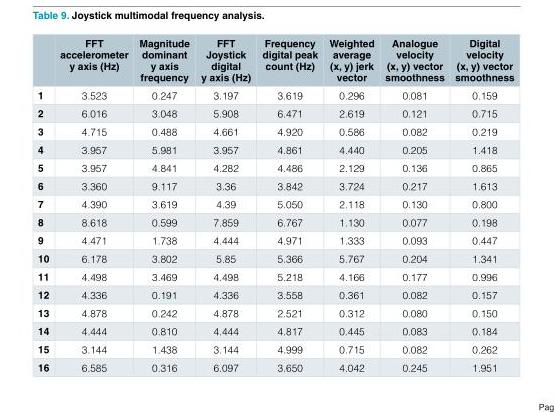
<table><thead><tr><td></td><td>FFT accelerometer y axis (Hz)</td><td>Magnitude dominant y axis frequency</td><td>FFT Joystick digital y axis (Hz)</td><td>Frequency digital peak count (Hz)</td><td>Weighted average (x, y) jerk vector</td><td>Analogue velocity (x, y) vector smoothness</td><td>Digital velocity (x, y) vector smoothness</td></tr></thead><tbody><tr><td>1</td><td>3.523</td><td>0.247</td><td>3.197</td><td>3.619</td><td>0.296</td><td>0.081</td><td>0.159</td></tr><tr><td>2</td><td>6.016</td><td>3.048</td><td>5.908</td><td>6.471</td><td>2.619</td><td>0.121</td><td>0.715</td></tr><tr><td>3</td><td>4.715</td><td>0.488</td><td>4.661</td><td>4.920</td><td>0.586</td><td>0.082</td><td>0.219</td></tr><tr><td>4</td><td>3.957</td><td>5.981</td><td>3.957</td><td>4.861</td><td>4.440</td><td>0.205</td><td>1.418</td></tr><tr><td>5</td><td>3.957</td><td>4.841</td><td>4.282</td><td>4.486</td><td>2.129</td><td>0.136</td><td>0.865</td></tr><tr><td>6</td><td>3.360</td><td>9.117</td><td>3.36</td><td>3.842</td><td>3.724</td><td>0.217</td><td>1.613</td></tr><tr><td>7</td><td>4.390</td><td>3.619</td><td>4.39</td><td>5.050</td><td>2.118</td><td>0.130</td><td>0.800</td></tr><tr><td>8</td><td>8.618</td><td>0.599</td><td>7.859</td><td>6.767</td><td>1.130</td><td>0.077</td><td>0.198</td></tr><tr><td>9</td><td>4.471</td><td>1.738</td><td>4.444</td><td>4.971</td><td>1.333</td><td>0.093</td><td>0.447</td></tr><tr><td>10</td><td>6.178</td><td>3.802</td><td>5.85</td><td>5.366</td><td>5.767</td><td>0.204</td><td>1.341</td></tr><tr><td>11</td><td>4.498</td><td>3.469</td><td>4.498</td><td>5.218</td><td>4.166</td><td>0.177</td><td>0.996</td></tr><tr><td>12</td><td>4.336</td><td>0.191</td><td>4.336</td><td>3.558</td><td>0.361</td><td>0.082</td><td>0.157</td></tr><tr><td>13</td><td>4.878</td><td>0.242</td><td>4.878</td><td>2.521</td><td>0.312</td><td>0.080</td><td>0.150</td></tr><tr><td>14</td><td>4.444</td><td>0.810</td><td>4.444</td><td>4.817</td><td>0.445</td><td>0.083</td><td>0.184</td></tr><tr><td>15</td><td>3.144</td><td>1.438</td><td>3.144</td><td>4.999</td><td>0.715</td><td>0.082</td><td>0.262</td></tr><tr><td>16</td><td>6.585</td><td>0.316</td><td>6.097</td><td>3.650</td><td>4.042</td><td>0.245</td><td>1.951</td></tr></tbody></table>